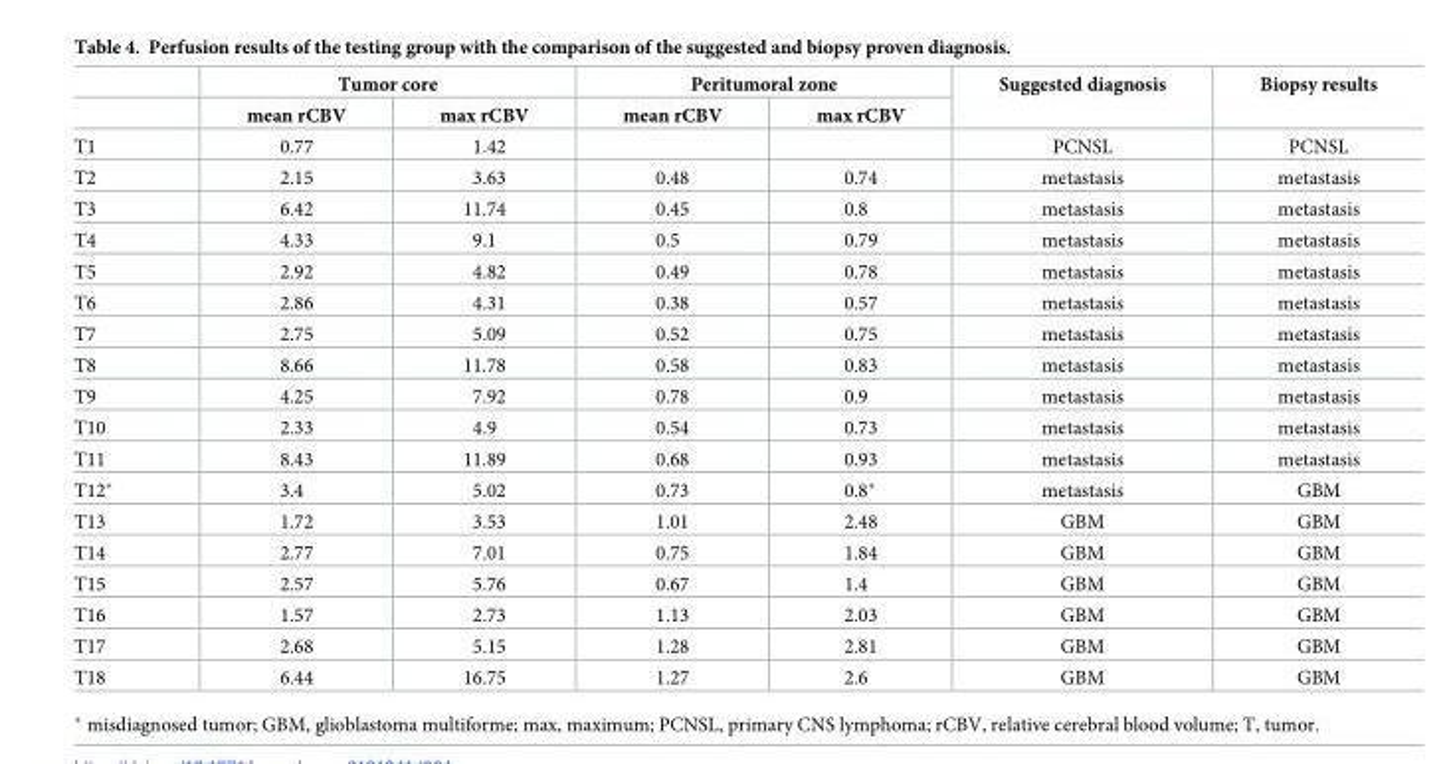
<table><thead><tr><td rowspan="2"></td><td colspan="2">Tumor core</td><td colspan="2">Peritumoral zone</td><td rowspan="2">Suggested diagnosis</td><td rowspan="2">Biopsy results</td></tr><tr><td>mean rCBV</td><td>max rCBV</td><td>mean rCBV</td><td>max rCBV</td></tr></thead><tbody><tr><td>T1</td><td>0.77</td><td>1.42</td><td></td><td></td><td>PCNSL</td><td>PCNSL</td></tr><tr><td>T2</td><td>2.15</td><td>3.63</td><td>0.48</td><td>0.74</td><td>metastasis</td><td>metastasis</td></tr><tr><td>T3</td><td>6.42</td><td>11.74</td><td>0.45</td><td>0.8</td><td>metastasis</td><td>metastasis</td></tr><tr><td>T4</td><td>4.33</td><td>9.1</td><td>0.5</td><td>0.79</td><td>metastasis</td><td>metastasis</td></tr><tr><td>T5</td><td>2.92</td><td>4.82</td><td>0.49</td><td>0.78</td><td>metastasis</td><td>metastasis</td></tr><tr><td>T6</td><td>2.86</td><td>4.31</td><td>0.38</td><td>0.57</td><td>metastasis</td><td>metastasis</td></tr><tr><td>T7</td><td>2.75</td><td>5.09</td><td>0.52</td><td>0.75</td><td>metastasis</td><td>metastasis</td></tr><tr><td>T8</td><td>8.66</td><td>11.78</td><td>0.58</td><td>0.83</td><td>metastasis</td><td>metastasis</td></tr><tr><td>T9</td><td>4.25</td><td>7.92</td><td>0.78</td><td>0.9</td><td>metastasis</td><td>metastasis</td></tr><tr><td>T10</td><td>2.33</td><td>4.9</td><td>0.54</td><td>0.73</td><td>metastasis</td><td>metastasis</td></tr><tr><td>T11</td><td>8.43</td><td>11.89</td><td>0.68</td><td>0.93</td><td>metastasis</td><td>metastasis</td></tr><tr><td>T12*</td><td>3.4</td><td>5.02</td><td>0.73</td><td>0.8*</td><td>metastasis</td><td>GBM</td></tr><tr><td>T13</td><td>1.72</td><td>3.53</td><td>1.01</td><td>2.48</td><td>GBM</td><td>GBM</td></tr><tr><td>T14</td><td>2.77</td><td>7.01</td><td>0.75</td><td>1.84</td><td>GBM</td><td>GBM</td></tr><tr><td>T15</td><td>2.57</td><td>5.76</td><td>0.67</td><td>1.4</td><td>GBM</td><td>GBM</td></tr><tr><td>T16</td><td>1.57</td><td>2.73</td><td>1.13</td><td>2.03</td><td>GBM</td><td>GBM</td></tr><tr><td>T17</td><td>2.68</td><td>5.15</td><td>1.28</td><td>2.81</td><td>GBM</td><td>GBM</td></tr><tr><td>T18</td><td>6.44</td><td>16.75</td><td>1.27</td><td>2.6</td><td>GBM</td><td>GBM</td></tr></tbody></table>